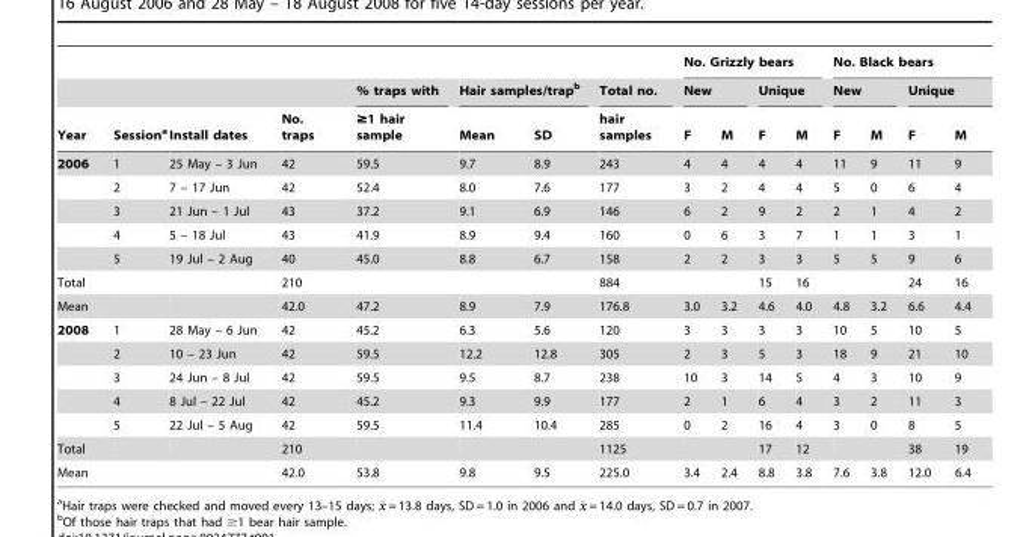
<table><thead><tr><td rowspan="3">Year</td><td rowspan="3">Session<sup>a</sup></td><td rowspan="3">Install dates</td><td rowspan="3">No. traps</td><td rowspan="3">% traps with ≥1 hair sample</td><td></td><td></td><td rowspan="3">Total no. hair samples</td><td colspan="4">No. Grizzly bears</td><td colspan="4">No. Black bears</td></tr><tr><td colspan="2">Hair samples/trap<sup>b</sup></td><td colspan="2">New</td><td colspan="2">Unique</td><td colspan="2">New</td><td colspan="2">Unique</td></tr><tr><td>Mean</td><td>SD</td><td>F</td><td>M</td><td>F</td><td>M</td><td>F</td><td>M</td><td>F</td><td>M</td></tr></thead><tbody><tr><td rowspan="5">2006</td><td>1</td><td>25 May – 3 Jun</td><td>42</td><td>59.5</td><td>9.7</td><td>8.9</td><td>243</td><td>4</td><td>4</td><td>4</td><td>4</td><td>11</td><td>9</td><td>11</td><td>9</td></tr><tr><td>2</td><td>7 – 17 Jun</td><td>42</td><td>52.4</td><td>8.0</td><td>7.6</td><td>177</td><td>3</td><td>2</td><td>4</td><td>4</td><td>5</td><td>0</td><td>6</td><td>4</td></tr><tr><td>3</td><td>21 Jun – 1 Jul</td><td>43</td><td>37.2</td><td>9.1</td><td>6.9</td><td>146</td><td>6</td><td>2</td><td>9</td><td>2</td><td>2</td><td>1</td><td>4</td><td>2</td></tr><tr><td>4</td><td>5 – 18 Jul</td><td>43</td><td>41.9</td><td>8.9</td><td>9.4</td><td>160</td><td>0</td><td>6</td><td>3</td><td>7</td><td>1</td><td>1</td><td>3</td><td>1</td></tr><tr><td>5</td><td>19 Jul – 2 Aug</td><td>40</td><td>45.0</td><td>8.8</td><td>6.7</td><td>158</td><td>2</td><td>2</td><td>3</td><td>3</td><td>5</td><td>5</td><td>9</td><td>6</td></tr><tr><td>Total</td><td></td><td></td><td>210</td><td></td><td></td><td></td><td>884</td><td></td><td></td><td>15</td><td>16</td><td></td><td></td><td>24</td><td>16</td></tr><tr><td>Mean</td><td></td><td></td><td>42.0</td><td>47.2</td><td>8.9</td><td>7.9</td><td>176.8</td><td>3.0</td><td>3.2</td><td>4.6</td><td>4.0</td><td>4.8</td><td>3.2</td><td>6.6</td><td>4.4</td></tr><tr><td rowspan="5">2008</td><td>1</td><td>28 May – 6 Jun</td><td>42</td><td>45.2</td><td>6.3</td><td>5.6</td><td>120</td><td>3</td><td>3</td><td>3</td><td>3</td><td>10</td><td>5</td><td>10</td><td>5</td></tr><tr><td>2</td><td>10 – 23 Jun</td><td>42</td><td>59.5</td><td>12.2</td><td>12.8</td><td>305</td><td>2</td><td>3</td><td>5</td><td>3</td><td>18</td><td>9</td><td>21</td><td>10</td></tr><tr><td>3</td><td>24 Jun – 8 Jul</td><td>42</td><td>59.5</td><td>9.5</td><td>8.7</td><td>238</td><td>10</td><td>3</td><td>14</td><td>5</td><td>4</td><td>3</td><td>10</td><td>9</td></tr><tr><td>4</td><td>8 Jul – 22 Jul</td><td>42</td><td>45.2</td><td>9.3</td><td>9.9</td><td>177</td><td>2</td><td>1</td><td>6</td><td>4</td><td>3</td><td>2</td><td>11</td><td>3</td></tr><tr><td>5</td><td>22 Jul – 5 Aug</td><td>42</td><td>59.5</td><td>11.4</td><td>10.4</td><td>285</td><td>0</td><td>2</td><td>16</td><td>4</td><td>3</td><td>0</td><td>8</td><td>5</td></tr><tr><td>Total</td><td></td><td></td><td>210</td><td></td><td></td><td></td><td>1125</td><td></td><td></td><td>17</td><td>12</td><td></td><td></td><td>38</td><td>19</td></tr><tr><td>Mean</td><td></td><td></td><td>42.0</td><td>53.8</td><td>9.8</td><td>9.5</td><td>225.0</td><td>3.4</td><td>2.4</td><td>8.8</td><td>3.8</td><td>7.6</td><td>3.8</td><td>12.0</td><td>6.4</td></tr></tbody></table>